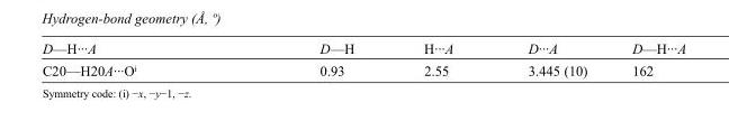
<table><tbody><tr><td>D—H···A</td><td>D—H</td><td>H···A</td><td>D···A</td><td>D—H···A</td></tr><tr><td>C20—H20A···O<sup>i</sup></td><td>0.93</td><td>2.55</td><td>3.445 (10)</td><td>162</td></tr></tbody></table>